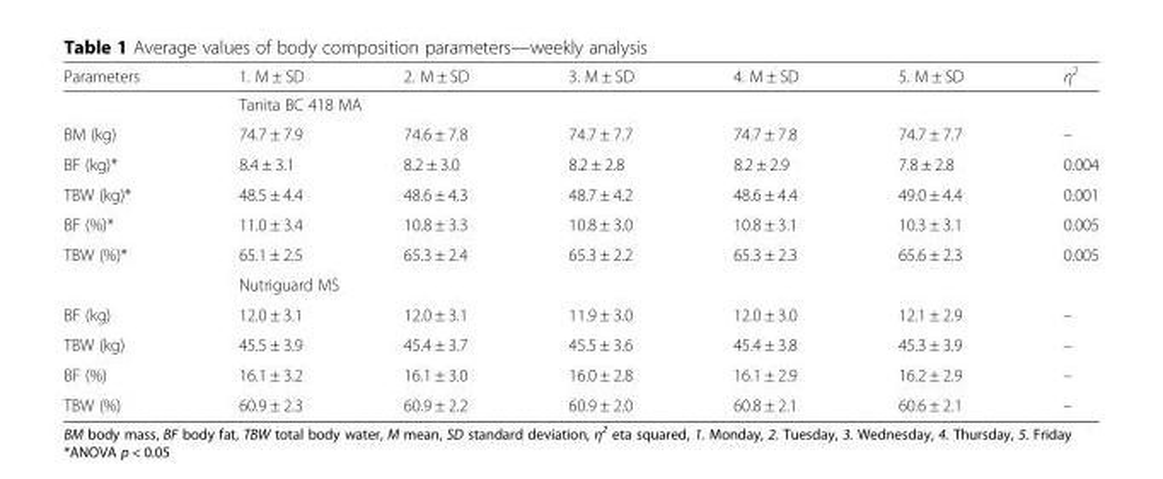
<table><thead><tr><td>Parameters</td><td>1. M ± SD</td><td>2. M ± SD</td><td>3. M ± SD</td><td>4. M ± SD</td><td>5. M ± SD</td><td>η<sup>2</sup></td></tr></thead><tbody><tr><td></td><td colspan="5">Tanita BC 418 MA</td><td></td></tr><tr><td>BM (kg)</td><td>74.7 ± 7.9</td><td>74.6 ± 7.8</td><td>74.7 ± 7.7</td><td>74.7 ± 7.8</td><td>74.7 ± 7.7</td><td>–</td></tr><tr><td>BF (kg)*</td><td>8.4 ± 3.1</td><td>8.2 ± 3.0</td><td>8.2 ± 2.8</td><td>8.2 ± 2.9</td><td>7.8 ± 2.8</td><td>0.004</td></tr><tr><td>TBW (kg)*</td><td>48.5 ± 4.4</td><td>48.6 ± 4.3</td><td>48.7 ± 4.2</td><td>48.6 ± 4.4</td><td>49.0 ± 4.4</td><td>0.001</td></tr><tr><td>BF (%)*</td><td>11.0 ± 3.4</td><td>10.8 ± 3.3</td><td>10.8 ± 3.0</td><td>10.8 ± 3.1</td><td>10.3 ± 3.1</td><td>0.005</td></tr><tr><td rowspan="2">TBW (%)*</td><td>65.1 ± 2.5</td><td>65.3 ± 2.4</td><td>65.3 ± 2.2</td><td>65.3 ± 2.3</td><td>65.6 ± 2.3</td><td>0.005</td></tr><tr><td colspan="5">Nutriguard MS</td><td></td></tr><tr><td>BF (kg)</td><td>12.0 ± 3.1</td><td>12.0 ± 3.1</td><td>11.9 ± 3.0</td><td>12.0 ± 3.0</td><td>12.1 ± 2.9</td><td>–</td></tr><tr><td>TBW (kg)</td><td>45.5 ± 3.9</td><td>45.4 ± 3.7</td><td>45.5 ± 3.6</td><td>45.4 ± 3.8</td><td>45.3 ± 3.9</td><td>–</td></tr><tr><td>BF (%)</td><td>16.1 ± 3.2</td><td>16.1 ± 3.0</td><td>16.0 ± 2.8</td><td>16.1 ± 2.9</td><td>16.2 ± 2.9</td><td>–</td></tr><tr><td>TBW (%)</td><td>60.9 ± 2.3</td><td>60.9 ± 2.2</td><td>60.9 ± 2.0</td><td>60.8 ± 2.1</td><td>60.6 ± 2.1</td><td>–</td></tr></tbody></table>